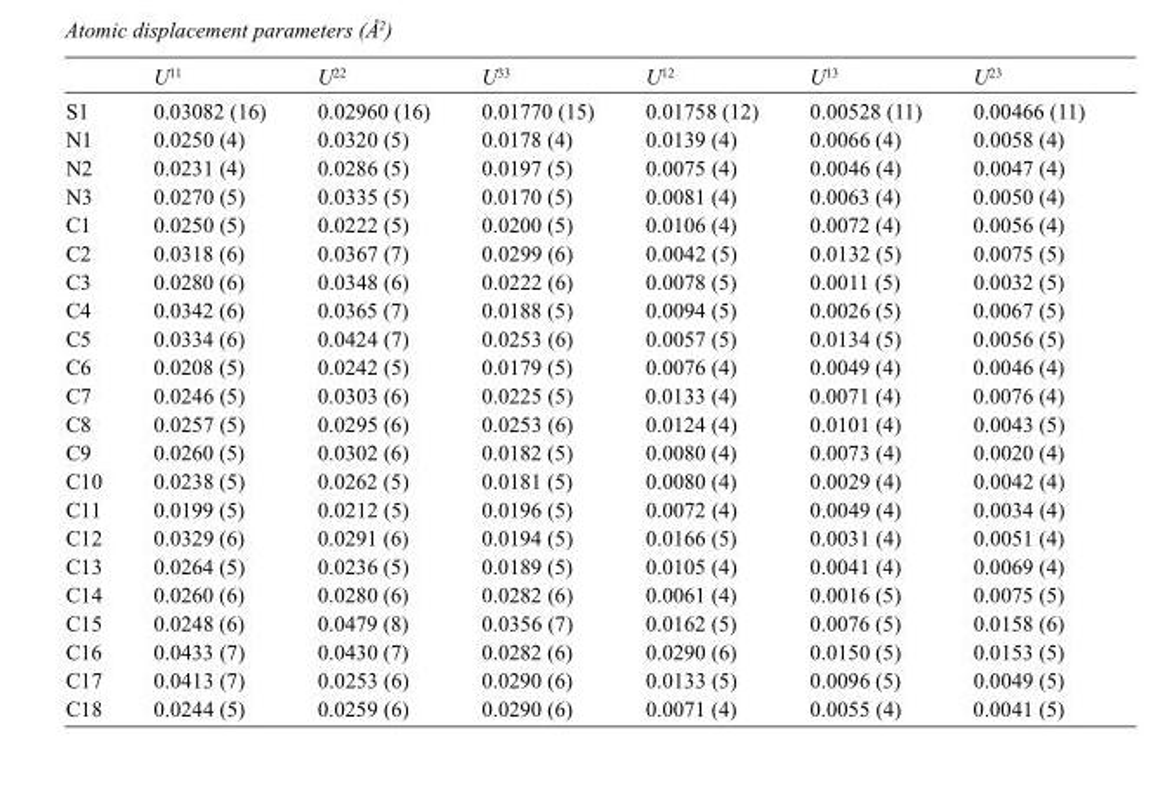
<table><thead><tr><td></td><td>U<sup>11</sup></td><td>U<sup>22</sup></td><td>U<sup>33</sup></td><td>U<sup>12</sup></td><td>U<sup>13</sup></td><td>U<sup>23</sup></td></tr></thead><tbody><tr><td>S1</td><td>0.03082 (16)</td><td>0.02960 (16)</td><td>0.01770 (15)</td><td>0.01758 (12)</td><td>0.00528 (11)</td><td>0.00466 (11)</td></tr><tr><td>N1</td><td>0.0250 (4)</td><td>0.0320 (5)</td><td>0.0178 (4)</td><td>0.0139 (4)</td><td>0.0066 (4)</td><td>0.0058 (4)</td></tr><tr><td>N2</td><td>0.0231 (4)</td><td>0.0286 (5)</td><td>0.0197 (5)</td><td>0.0075 (4)</td><td>0.0046 (4)</td><td>0.0047 (4)</td></tr><tr><td>N3</td><td>0.0270 (5)</td><td>0.0335 (5)</td><td>0.0170 (5)</td><td>0.0081 (4)</td><td>0.0063 (4)</td><td>0.0050 (4)</td></tr><tr><td>C1</td><td>0.0250 (5)</td><td>0.0222 (5)</td><td>0.0200 (5)</td><td>0.0106 (4)</td><td>0.0072 (4)</td><td>0.0056 (4)</td></tr><tr><td>C2</td><td>0.0318 (6)</td><td>0.0367 (7)</td><td>0.0299 (6)</td><td>0.0042 (5)</td><td>0.0132 (5)</td><td>0.0075 (5)</td></tr><tr><td>C3</td><td>0.0280 (6)</td><td>0.0348 (6)</td><td>0.0222 (6)</td><td>0.0078 (5)</td><td>0.0011 (5)</td><td>0.0032 (5)</td></tr><tr><td>C4</td><td>0.0342 (6)</td><td>0.0365 (7)</td><td>0.0188 (5)</td><td>0.0094 (5)</td><td>0.0026 (5)</td><td>0.0067 (5)</td></tr><tr><td>C5</td><td>0.0334 (6)</td><td>0.0424 (7)</td><td>0.0253 (6)</td><td>0.0057 (5)</td><td>0.0134 (5)</td><td>0.0056 (5)</td></tr><tr><td>C6</td><td>0.0208 (5)</td><td>0.0242 (5)</td><td>0.0179 (5)</td><td>0.0076 (4)</td><td>0.0049 (4)</td><td>0.0046 (4)</td></tr><tr><td>C7</td><td>0.0246 (5)</td><td>0.0303 (6)</td><td>0.0225 (5)</td><td>0.0133 (4)</td><td>0.0071 (4)</td><td>0.0076 (4)</td></tr><tr><td>C8</td><td>0.0257 (5)</td><td>0.0295 (6)</td><td>0.0253 (6)</td><td>0.0124 (4)</td><td>0.0101 (4)</td><td>0.0043 (5)</td></tr><tr><td>C9</td><td>0.0260 (5)</td><td>0.0302 (6)</td><td>0.0182 (5)</td><td>0.0080 (4)</td><td>0.0073 (4)</td><td>0.0020 (4)</td></tr><tr><td>C10</td><td>0.0238 (5)</td><td>0.0262 (5)</td><td>0.0181 (5)</td><td>0.0080 (4)</td><td>0.0029 (4)</td><td>0.0042 (4)</td></tr><tr><td>C11</td><td>0.0199 (5)</td><td>0.0212 (5)</td><td>0.0196 (5)</td><td>0.0072 (4)</td><td>0.0049 (4)</td><td>0.0034 (4)</td></tr><tr><td>C12</td><td>0.0329 (6)</td><td>0.0291 (6)</td><td>0.0194 (5)</td><td>0.0166 (5)</td><td>0.0031 (4)</td><td>0.0051 (4)</td></tr><tr><td>C13</td><td>0.0264 (5)</td><td>0.0236 (5)</td><td>0.0189 (5)</td><td>0.0105 (4)</td><td>0.0041 (4)</td><td>0.0069 (4)</td></tr><tr><td>C14</td><td>0.0260 (6)</td><td>0.0280 (6)</td><td>0.0282 (6)</td><td>0.0061 (4)</td><td>0.0016 (5)</td><td>0.0075 (5)</td></tr><tr><td>C15</td><td>0.0248 (6)</td><td>0.0479 (8)</td><td>0.0356 (7)</td><td>0.0162 (5)</td><td>0.0076 (5)</td><td>0.0158 (6)</td></tr><tr><td>C16</td><td>0.0433 (7)</td><td>0.0430 (7)</td><td>0.0282 (6)</td><td>0.0290 (6)</td><td>0.0150 (5)</td><td>0.0153 (5)</td></tr><tr><td>C17</td><td>0.0413 (7)</td><td>0.0253 (6)</td><td>0.0290 (6)</td><td>0.0133 (5)</td><td>0.0096 (5)</td><td>0.0049 (5)</td></tr><tr><td>C18</td><td>0.0244 (5)</td><td>0.0259 (6)</td><td>0.0290 (6)</td><td>0.0071 (4)</td><td>0.0055 (4)</td><td>0.0041 (5)</td></tr></tbody></table>